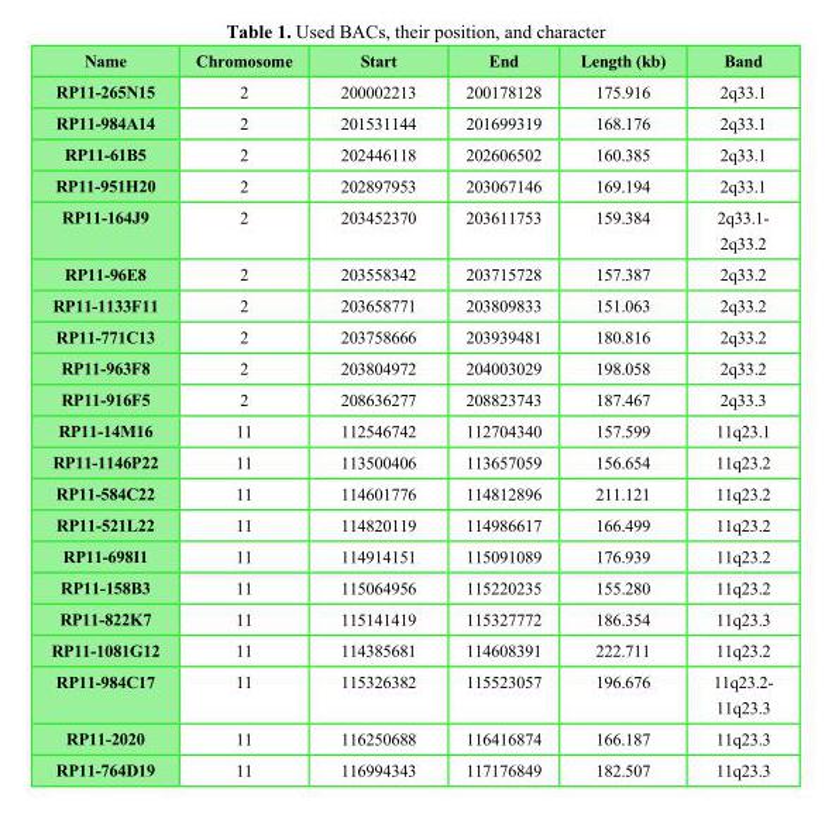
<table><thead><tr><td>Name</td><td>Chromosome</td><td>Start</td><td>End</td><td>Length (kb)</td><td>Band</td></tr></thead><tbody><tr><td>RP11-265N15</td><td>2</td><td>200002213</td><td>200178128</td><td>175.916</td><td>2q33.1</td></tr><tr><td>RP11-984A14</td><td>2</td><td>201531144</td><td>201699319</td><td>168.176</td><td>2q33.1</td></tr><tr><td>RP11-61B5</td><td>2</td><td>202446118</td><td>202606502</td><td>160.385</td><td>2q33.1</td></tr><tr><td>RP11-951H20</td><td>2</td><td>202897953</td><td>203067146</td><td>169.194</td><td>2q33.1</td></tr><tr><td>RP11-164J9</td><td>2</td><td>203452370</td><td>203611753</td><td>159.384</td><td>2q33.1- 2q33.2</td></tr><tr><td>RP11-96E8</td><td>2</td><td>203558342</td><td>203715728</td><td>157.387</td><td>2q33.2</td></tr><tr><td>RP11-1133F11</td><td>2</td><td>203658771</td><td>203809833</td><td>151.063</td><td>2q33.2</td></tr><tr><td>RP11-771C13</td><td>2</td><td>203758666</td><td>203939481</td><td>180.816</td><td>2q33.2</td></tr><tr><td>RP11-963F8</td><td>2</td><td>203804972</td><td>204003029</td><td>198.058</td><td>2q33.2</td></tr><tr><td>RP11-916F5</td><td>2</td><td>208636277</td><td>208823743</td><td>187.467</td><td>2q33.3</td></tr><tr><td>RP11-14M16</td><td>11</td><td>112546742</td><td>112704340</td><td>157.599</td><td>11q23.1</td></tr><tr><td>RP11-1146P22</td><td>11</td><td>113500406</td><td>113657059</td><td>156.654</td><td>11q23.2</td></tr><tr><td>RP11-584C22</td><td>11</td><td>114601776</td><td>114812896</td><td>211.121</td><td>11q23.2</td></tr><tr><td>RP11-521L22</td><td>11</td><td>114820119</td><td>114986617</td><td>166.499</td><td>11q23.2</td></tr><tr><td>RP11-698I1</td><td>11</td><td>114914151</td><td>115091089</td><td>176.939</td><td>11q23.2</td></tr><tr><td>RP11-158B3</td><td>11</td><td>115064956</td><td>115220235</td><td>155.280</td><td>11q23.2</td></tr><tr><td>RP11-822K7</td><td>11</td><td>115141419</td><td>115327772</td><td>186.354</td><td>11q23.3</td></tr><tr><td>RP11-1081G12</td><td>11</td><td>114385681</td><td>114608391</td><td>222.711</td><td>11q23.2</td></tr><tr><td>RP11-984C17</td><td>11</td><td>115326382</td><td>115523057</td><td>196.676</td><td>11q23.2- 11q23.3</td></tr><tr><td>RP11-2020</td><td>11</td><td>116250688</td><td>116416874</td><td>166.187</td><td>11q23.3</td></tr><tr><td>RP11-764D19</td><td>11</td><td>116994343</td><td>117176849</td><td>182.507</td><td>11q23.3</td></tr></tbody></table>